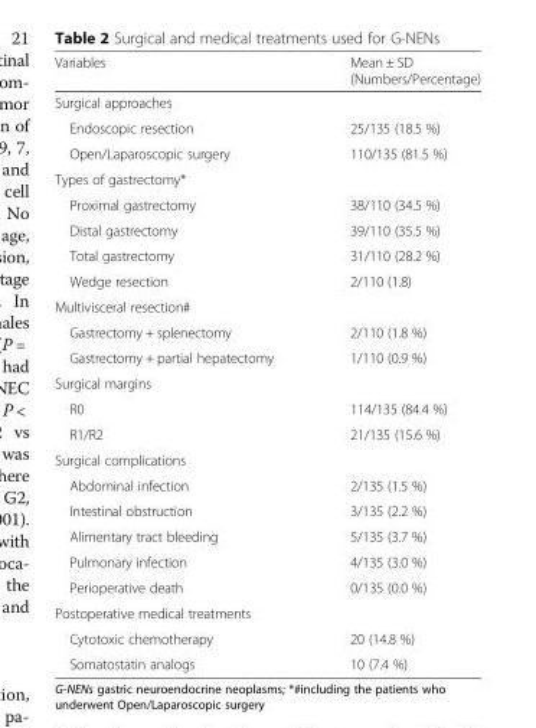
<table><thead><tr><td>Variables</td><td>Mean ± SD (Numbers/Percentage)</td></tr></thead><tbody><tr><td colspan="2">Surgical approaches</td></tr><tr><td>Endoscopic resection</td><td>25/135 (18.5 %)</td></tr><tr><td>Open/Laparoscopic surgery</td><td>110/135 (81.5 %)</td></tr><tr><td colspan="2">Types of gastrectomy*</td></tr><tr><td>Proximal gastrectomy</td><td>38/110 (34.5 %)</td></tr><tr><td>Distal gastrectomy</td><td>39/110 (35.5 %)</td></tr><tr><td>Total gastrectomy</td><td>31/110 (28.2 %)</td></tr><tr><td>Wedge resection</td><td>2/110 (1.8)</td></tr><tr><td colspan="2">Multivisceral resection#</td></tr><tr><td>Gastrectomy + splenectomy</td><td>2/110 (1.8 %)</td></tr><tr><td>Gastrectomy + partial hepatectomy</td><td>1/110 (0.9 %)</td></tr><tr><td colspan="2">Surgical margins</td></tr><tr><td>R0</td><td>114/135 (84.4 %)</td></tr><tr><td>R1/R2</td><td>21/135 (15.6 %)</td></tr><tr><td colspan="2">Surgical complications</td></tr><tr><td>Abdominal infection</td><td>2/135 (1.5 %)</td></tr><tr><td>Intestinal obstruction</td><td>3/135 (2.2 %)</td></tr><tr><td>Alimentary tract bleeding</td><td>5/135 (3.7 %)</td></tr><tr><td>Pulmonary infection</td><td>4/135 (3.0 %)</td></tr><tr><td>Perioperative death</td><td>0/135 (0.0 %)</td></tr><tr><td colspan="2">Postoperative medical treatments</td></tr><tr><td>Cytotoxic chemotherapy</td><td>20 (14.8 %)</td></tr><tr><td>Somatostatin analogs</td><td>10 (7.4 %)</td></tr></tbody></table>